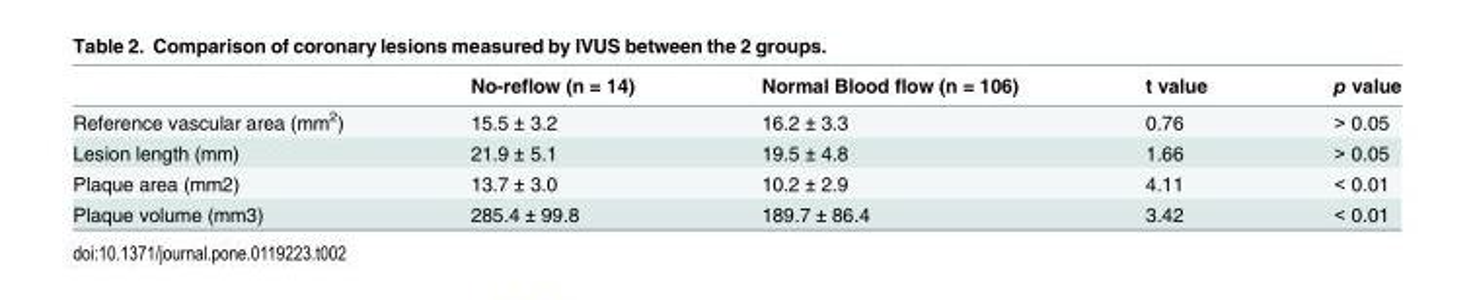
<table><thead><tr><td></td><td>No-reflow (n = 14)</td><td>Normal Blood flow (n = 106)</td><td>t value</td><td>p value</td></tr></thead><tbody><tr><td>Reference vascular area (mm<sup>2</sup>)</td><td>15.5 ± 3.2</td><td>16.2 ± 3.3</td><td>0.76</td><td>&gt; 0.05</td></tr><tr><td>Lesion length (mm)</td><td>21.9 ± 5.1</td><td>19.5 ± 4.8</td><td>1.66</td><td>&gt; 0.05</td></tr><tr><td>Plaque area (mm2)</td><td>13.7 ± 3.0</td><td>10.2 ± 2.9</td><td>4.11</td><td>&lt; 0.01</td></tr><tr><td>Plaque volume (mm3)</td><td>285.4 ± 99.8</td><td>189.7 ± 86.4</td><td>3.42</td><td>&lt; 0.01</td></tr></tbody></table>